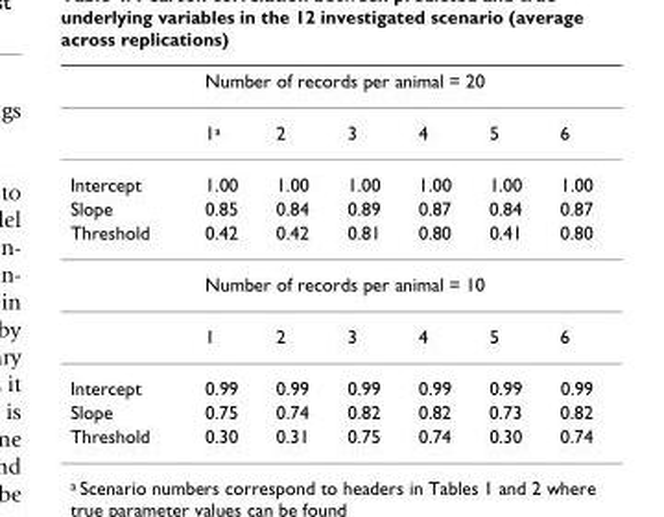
<table><thead><tr><td rowspan="2"></td><td colspan="6">Number of records per animal = 20</td></tr><tr><td>1<sup>a</sup></td><td>2</td><td>3</td><td>4</td><td>5</td><td>6</td></tr></thead><tbody><tr><td>Intercept</td><td>1.00</td><td>1.00</td><td>1.00</td><td>1.00</td><td>1.00</td><td>1.00</td></tr><tr><td>Slope</td><td>0.85</td><td>0.84</td><td>0.89</td><td>0.87</td><td>0.84</td><td>0.87</td></tr><tr><td rowspan="3">Threshold</td><td>0.42</td><td>0.42</td><td>0.81</td><td>0.80</td><td>0.41</td><td>0.80</td></tr><tr><td colspan="6">Number of records per animal = 10</td></tr><tr><td>1</td><td>2</td><td>3</td><td>4</td><td>5</td><td>6</td></tr><tr><td>Intercept</td><td>0.99</td><td>0.99</td><td>0.99</td><td>0.99</td><td>0.99</td><td>0.99</td></tr><tr><td>Slope</td><td>0.75</td><td>0.74</td><td>0.82</td><td>0.82</td><td>0.73</td><td>0.82</td></tr><tr><td>Threshold</td><td>0.30</td><td>0.31</td><td>0.75</td><td>0.74</td><td>0.30</td><td>0.74</td></tr></tbody></table>